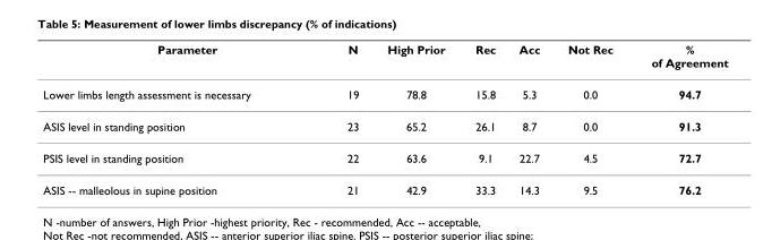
<table><thead><tr><td>Parameter</td><td>N</td><td>High Prior</td><td>Rec</td><td>Acc</td><td>Not Rec</td><td>% of Agreement</td></tr></thead><tbody><tr><td>Lower limbs length assessment is necessary</td><td>19</td><td>78.8</td><td>15.8</td><td>5.3</td><td>0.0</td><td>94.7</td></tr><tr><td>ASIS level in standing position</td><td>23</td><td>65.2</td><td>26.1</td><td>8.7</td><td>0.0</td><td>91.3</td></tr><tr><td>PSIS level in standing position</td><td>22</td><td>63.6</td><td>9.1</td><td>22.7</td><td>4.5</td><td>72.7</td></tr><tr><td>ASIS -- malleolous in supine position</td><td>21</td><td>42.9</td><td>33.3</td><td>14.3</td><td>9.5</td><td>76.2</td></tr></tbody></table>